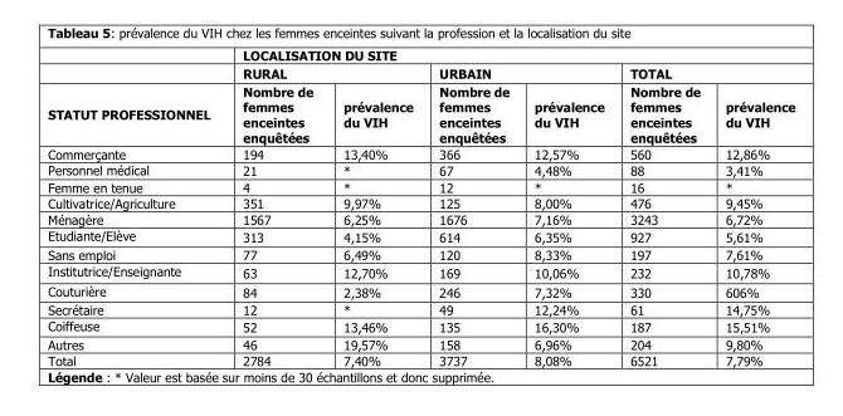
<table><thead><tr><td rowspan="3">STATUT PROFESSIONNEL</td><td colspan="6">LOCALISATION DU SITE</td></tr><tr><td colspan="2">RURAL</td><td colspan="2">URBAIN</td><td colspan="2">TOTAL</td></tr><tr><td>Nombre de femmes enceintes enquêtées</td><td>prévalence du VIH</td><td>Nombre de femmes enceintes enquêtées</td><td>prévalence du VIH</td><td>Nombre de femmes enceintes enquêtées</td><td>prévalence du VIH</td></tr></thead><tbody><tr><td>Commerçante</td><td>194</td><td>13,40%</td><td>366</td><td>12,57%</td><td>560</td><td>12,86%</td></tr><tr><td>Personnel médical</td><td>21</td><td>*</td><td>67</td><td>4,48%</td><td>88</td><td>3,41%</td></tr><tr><td>Femme en tenue</td><td>4</td><td>*</td><td>12</td><td>*</td><td>16</td><td>*</td></tr><tr><td>Cultivatrice/Agriculture</td><td>351</td><td>9,97%</td><td>125</td><td>8,00%</td><td>476</td><td>9,45%</td></tr><tr><td>Ménagère</td><td>1567</td><td>6,25%</td><td>1676</td><td>7,16%</td><td>3243</td><td>6,72%</td></tr><tr><td>Etudiante/Elève</td><td>313</td><td>4,15%</td><td>614</td><td>6,35%</td><td>927</td><td>5,61%</td></tr><tr><td>Sans emploi</td><td>77</td><td>6,49%</td><td>120</td><td>8,33%</td><td>197</td><td>7,61%</td></tr><tr><td>Institutrice/Enseignante</td><td>63</td><td>12,70%</td><td>169</td><td>10,06%</td><td>232</td><td>10,78%</td></tr><tr><td>Couturière</td><td>84</td><td>2,38%</td><td>246</td><td>7,32%</td><td>330</td><td>606%</td></tr><tr><td>Secrétaire</td><td>12</td><td>*</td><td>49</td><td>12,24%</td><td>61</td><td>14,75%</td></tr><tr><td>Coiffeuse</td><td>52</td><td>13,46%</td><td>135</td><td>16,30%</td><td>187</td><td>15,51%</td></tr><tr><td>Autres</td><td>46</td><td>19,57%</td><td>158</td><td>6,96%</td><td>204</td><td>9,80%</td></tr><tr><td>Total</td><td>2784</td><td>7,40%</td><td>3737</td><td>8,08%</td><td>6521</td><td>7,79%</td></tr></tbody></table>